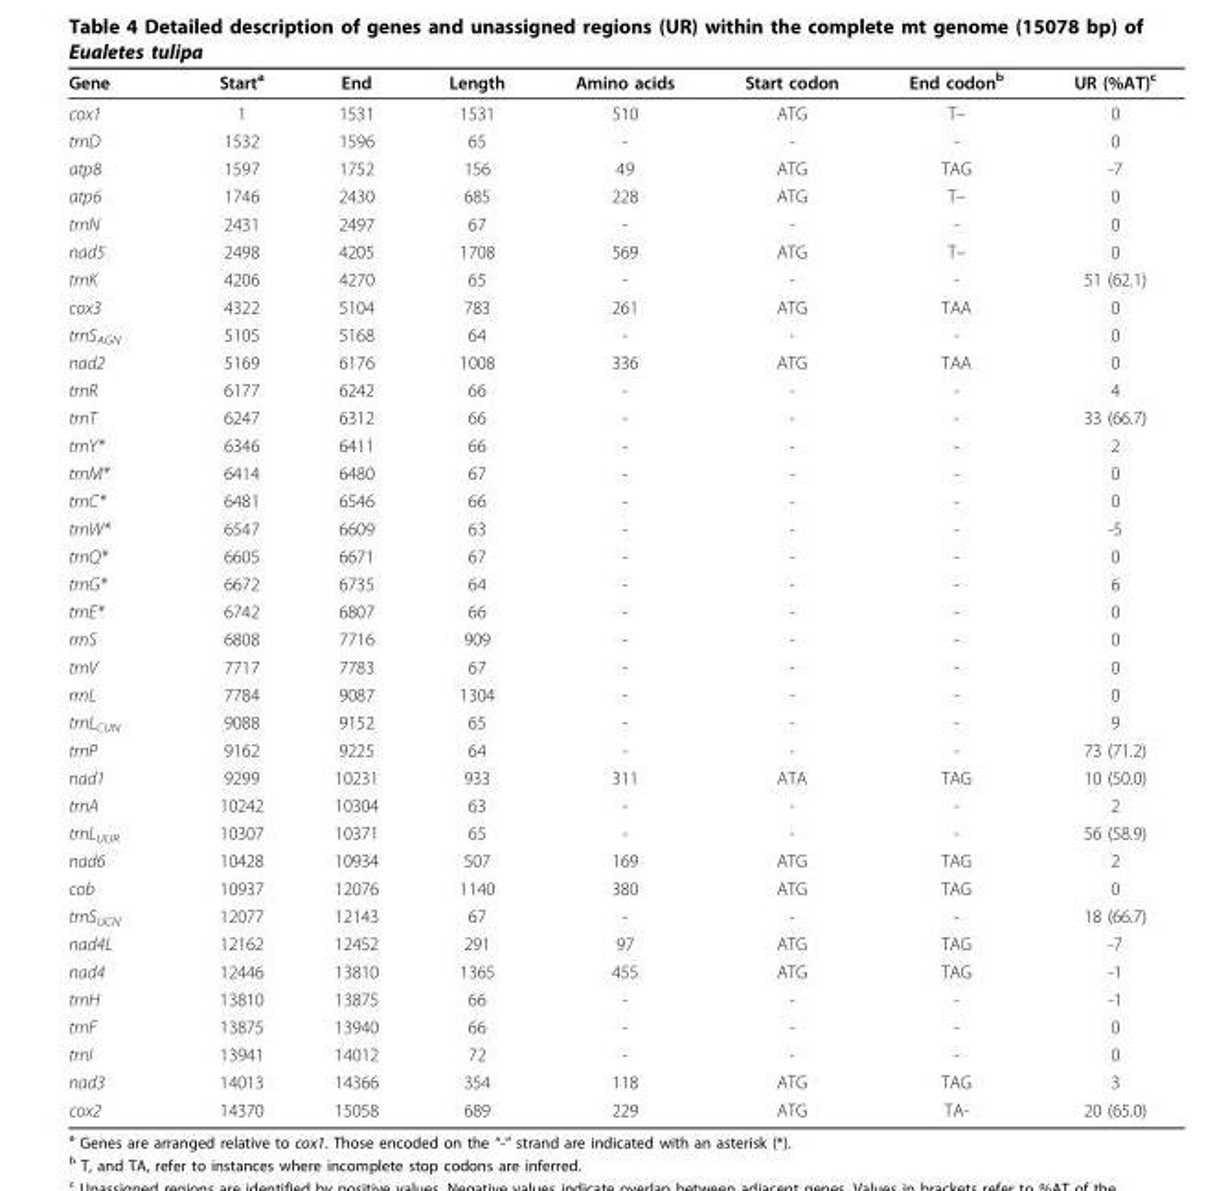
<table><thead><tr><td>Gene</td><td>Start<sup>a</sup></td><td>End</td><td>Length</td><td>Amino acids</td><td>Start codon</td><td>End codon<sup>b</sup></td><td>UR (%AT)<sup>c</sup></td></tr></thead><tbody><tr><td>cox1</td><td>1</td><td>1531</td><td>1531</td><td>510</td><td>ATG</td><td>T–</td><td>0</td></tr><tr><td>trnD</td><td>1532</td><td>1596</td><td>65</td><td>-</td><td>-</td><td>-</td><td>0</td></tr><tr><td>atp8</td><td>1597</td><td>1752</td><td>156</td><td>49</td><td>ATG</td><td>TAG</td><td>-7</td></tr><tr><td>atp6</td><td>1746</td><td>2430</td><td>685</td><td>228</td><td>ATG</td><td>T–</td><td>0</td></tr><tr><td>trnN</td><td>2431</td><td>2497</td><td>67</td><td>-</td><td>-</td><td>-</td><td>0</td></tr><tr><td>nad5</td><td>2498</td><td>4205</td><td>1708</td><td>569</td><td>ATG</td><td>T–</td><td>0</td></tr><tr><td>trnK</td><td>4206</td><td>4270</td><td>65</td><td>-</td><td>-</td><td>-</td><td>51 (62.1)</td></tr><tr><td>cox3</td><td>4322</td><td>5104</td><td>783</td><td>261</td><td>ATG</td><td>TAA</td><td>0</td></tr><tr><td>trnS<sub>AGN</sub></td><td>5105</td><td>5168</td><td>64</td><td>-</td><td>-</td><td>-</td><td>0</td></tr><tr><td>nad2</td><td>5169</td><td>6176</td><td>1008</td><td>336</td><td>ATG</td><td>TAA</td><td>0</td></tr><tr><td>trnR</td><td>6177</td><td>6242</td><td>66</td><td>-</td><td>-</td><td>-</td><td>4</td></tr><tr><td>trnT</td><td>6247</td><td>6312</td><td>66</td><td>-</td><td>-</td><td>-</td><td>33 (66.7)</td></tr><tr><td>trnY*</td><td>6346</td><td>6411</td><td>66</td><td>-</td><td>-</td><td>-</td><td>2</td></tr><tr><td>trnM*</td><td>6414</td><td>6480</td><td>67</td><td>-</td><td>-</td><td>-</td><td>0</td></tr><tr><td>trnC*</td><td>6481</td><td>6546</td><td>66</td><td>-</td><td>-</td><td>-</td><td>0</td></tr><tr><td>trnW*</td><td>6547</td><td>6609</td><td>63</td><td>-</td><td>-</td><td>-</td><td>-5</td></tr><tr><td>trnQ*</td><td>6605</td><td>6671</td><td>67</td><td>-</td><td>-</td><td>-</td><td>0</td></tr><tr><td>trnG*</td><td>6672</td><td>6735</td><td>64</td><td>-</td><td>-</td><td>-</td><td>6</td></tr><tr><td>trnE*</td><td>6742</td><td>6807</td><td>66</td><td>-</td><td>-</td><td>-</td><td>0</td></tr><tr><td>rrnS</td><td>6808</td><td>7716</td><td>909</td><td>-</td><td>-</td><td>-</td><td>0</td></tr><tr><td>trnV</td><td>7717</td><td>7783</td><td>67</td><td>-</td><td>-</td><td>-</td><td>0</td></tr><tr><td>rrnL</td><td>7784</td><td>9087</td><td>1304</td><td>-</td><td>-</td><td>-</td><td>0</td></tr><tr><td>trnL<sub>CUN</sub></td><td>9088</td><td>9152</td><td>65</td><td>-</td><td>-</td><td>-</td><td>9</td></tr><tr><td>trnP</td><td>9162</td><td>9225</td><td>64</td><td>-</td><td>-</td><td>-</td><td>73 (71.2)</td></tr><tr><td>nad1</td><td>9299</td><td>10231</td><td>933</td><td>311</td><td>ATA</td><td>TAG</td><td>10 (50.0)</td></tr><tr><td>trnA</td><td>10242</td><td>10304</td><td>63</td><td>-</td><td>-</td><td>-</td><td>2</td></tr><tr><td>trnL<sub>UUR</sub></td><td>10307</td><td>10371</td><td>65</td><td>-</td><td>-</td><td>-</td><td>56 (58.9)</td></tr><tr><td>nad6</td><td>10428</td><td>10934</td><td>507</td><td>169</td><td>ATG</td><td>TAG</td><td>2</td></tr><tr><td>cob</td><td>10937</td><td>12076</td><td>1140</td><td>380</td><td>ATG</td><td>TAG</td><td>0</td></tr><tr><td>trnS<sub>UCN</sub></td><td>12077</td><td>12143</td><td>67</td><td>-</td><td>-</td><td>-</td><td>18 (66.7)</td></tr><tr><td>nad4L</td><td>12162</td><td>12452</td><td>291</td><td>97</td><td>ATG</td><td>TAG</td><td>-7</td></tr><tr><td>nad4</td><td>12446</td><td>13810</td><td>1365</td><td>455</td><td>ATG</td><td>TAG</td><td>-1</td></tr><tr><td>trnH</td><td>13810</td><td>13875</td><td>66</td><td>-</td><td>-</td><td>-</td><td>-1</td></tr><tr><td>trnF</td><td>13875</td><td>13940</td><td>66</td><td>-</td><td>-</td><td>-</td><td>0</td></tr><tr><td>trnI</td><td>13941</td><td>14012</td><td>72</td><td>-</td><td>-</td><td>-</td><td>0</td></tr><tr><td>nad3</td><td>14013</td><td>14366</td><td>354</td><td>118</td><td>ATG</td><td>TAG</td><td>3</td></tr><tr><td>cox2</td><td>14370</td><td>15058</td><td>689</td><td>229</td><td>ATG</td><td>TA-</td><td>20 (65.0)</td></tr></tbody></table>